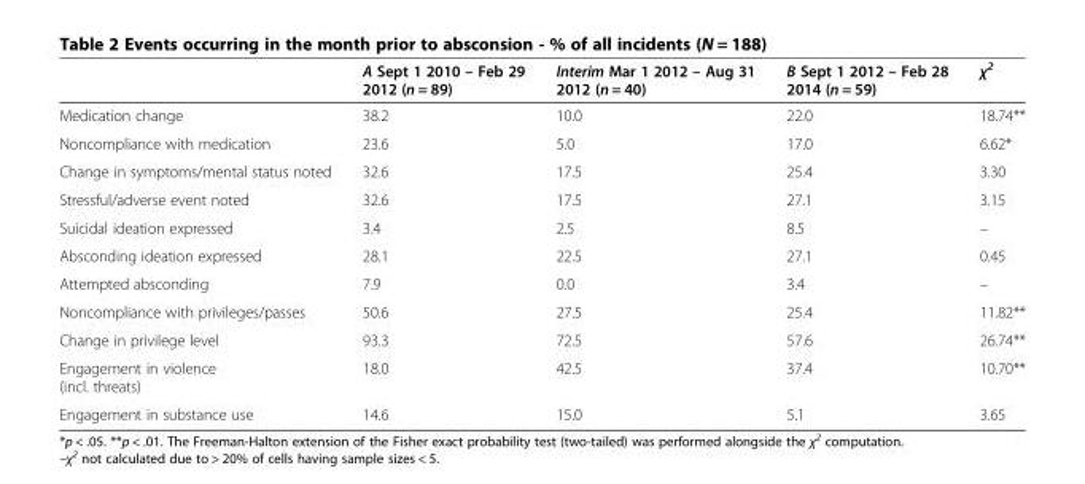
<table><thead><tr><td></td><td>A Sept 1 2010 – Feb 29 2012 (n = 89)</td><td>Interim Mar 1 2012 – Aug 31 2012 (n = 40)</td><td>B Sept 1 2012 – Feb 28 2014 (n = 59)</td><td>χ<sup>2</sup></td></tr></thead><tbody><tr><td>Medication change</td><td>38.2</td><td>10.0</td><td>22.0</td><td>18.74**</td></tr><tr><td>Noncompliance with medication</td><td>23.6</td><td>5.0</td><td>17.0</td><td>6.62*</td></tr><tr><td>Change in symptoms/mental status noted</td><td>32.6</td><td>17.5</td><td>25.4</td><td>3.30</td></tr><tr><td>Stressful/adverse event noted</td><td>32.6</td><td>17.5</td><td>27.1</td><td>3.15</td></tr><tr><td>Suicidal ideation expressed</td><td>3.4</td><td>2.5</td><td>8.5</td><td>–</td></tr><tr><td>Absconding ideation expressed</td><td>28.1</td><td>22.5</td><td>27.1</td><td>0.45</td></tr><tr><td>Attempted absconding</td><td>7.9</td><td>0.0</td><td>3.4</td><td>–</td></tr><tr><td>Noncompliance with privileges/passes</td><td>50.6</td><td>27.5</td><td>25.4</td><td>11.82**</td></tr><tr><td>Change in privilege level</td><td>93.3</td><td>72.5</td><td>57.6</td><td>26.74**</td></tr><tr><td>Engagement in violence (incl. threats)</td><td>18.0</td><td>42.5</td><td>37.4</td><td>10.70**</td></tr><tr><td>Engagement in substance use</td><td>14.6</td><td>15.0</td><td>5.1</td><td>3.65</td></tr></tbody></table>